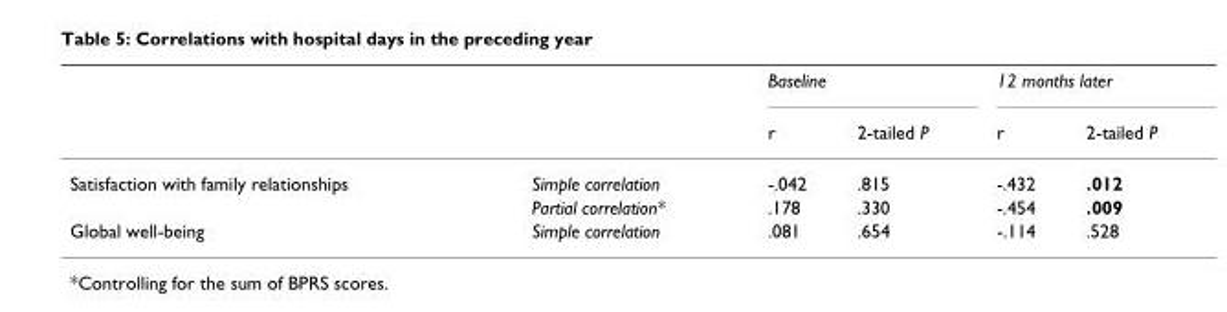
<table><thead><tr><td rowspan="2"></td><td rowspan="2"></td><td colspan="2">Baseline</td><td colspan="2">12 months later</td></tr><tr><td>r</td><td>2-tailed P</td><td>r</td><td>2-tailed P</td></tr></thead><tbody><tr><td rowspan="2">Satisfaction with family relationships</td><td>Simple correlation</td><td>-.042</td><td>.815</td><td>-.432</td><td>.012</td></tr><tr><td>Partial correlation*</td><td>.178</td><td>.330</td><td>-.454</td><td>.009</td></tr><tr><td>Global well-being</td><td>Simple correlation</td><td>.081</td><td>.654</td><td>-.114</td><td>.528</td></tr></tbody></table>